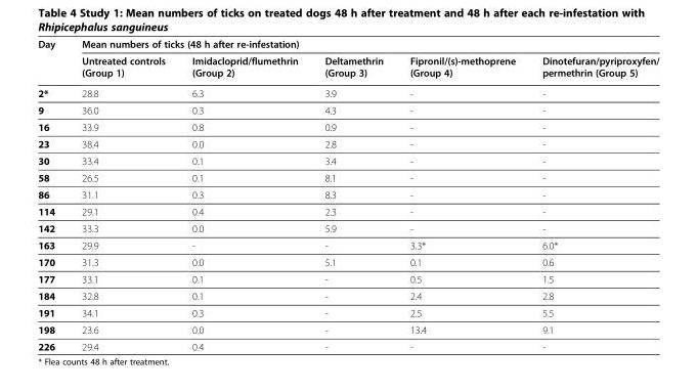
<table><thead><tr><td rowspan="2">Day</td><td colspan="5">Mean numbers of ticks (48 h after re-infestation)</td></tr><tr><td>Untreated controls (Group 1)</td><td>Imidacloprid/flumethrin (Group 2)</td><td>Deltamethrin (Group 3)</td><td>Fipronil/(s)-methoprene (Group 4)</td><td>Dinotefuran/pyriproxyfen/ permethrin (Group 5)</td></tr></thead><tbody><tr><td>2*</td><td>28.8</td><td>6.3</td><td>3.9</td><td>-</td><td>-</td></tr><tr><td>9</td><td>36.0</td><td>0.3</td><td>4.3</td><td>-</td><td>-</td></tr><tr><td>16</td><td>33.9</td><td>0.8</td><td>0.9</td><td>-</td><td>-</td></tr><tr><td>23</td><td>38.4</td><td>0.0</td><td>2.8</td><td>-</td><td>-</td></tr><tr><td>30</td><td>33.4</td><td>0.1</td><td>3.4</td><td>-</td><td>-</td></tr><tr><td>58</td><td>26.5</td><td>0.1</td><td>8.1</td><td>-</td><td>-</td></tr><tr><td>86</td><td>31.1</td><td>0.3</td><td>8.3</td><td>-</td><td>-</td></tr><tr><td>114</td><td>29.1</td><td>0.4</td><td>2.3</td><td>-</td><td>-</td></tr><tr><td>142</td><td>33.3</td><td>0.0</td><td>5.9</td><td>-</td><td>-</td></tr><tr><td>163</td><td>29.9</td><td>-</td><td>-</td><td>3.3*</td><td>6.0*</td></tr><tr><td>170</td><td>31.3</td><td>0.0</td><td>5.1</td><td>0.1</td><td>0.6</td></tr><tr><td>177</td><td>33.1</td><td>0.1</td><td>-</td><td>0.5</td><td>1.5</td></tr><tr><td>184</td><td>32.8</td><td>0.1</td><td>-</td><td>2.4</td><td>2.8</td></tr><tr><td>191</td><td>34.1</td><td>0.3</td><td>-</td><td>2.5</td><td>5.5</td></tr><tr><td>198</td><td>23.6</td><td>0.0</td><td>-</td><td>13.4</td><td>9.1</td></tr><tr><td>226</td><td>29.4</td><td>0.4</td><td>-</td><td>-</td><td>-</td></tr></tbody></table>